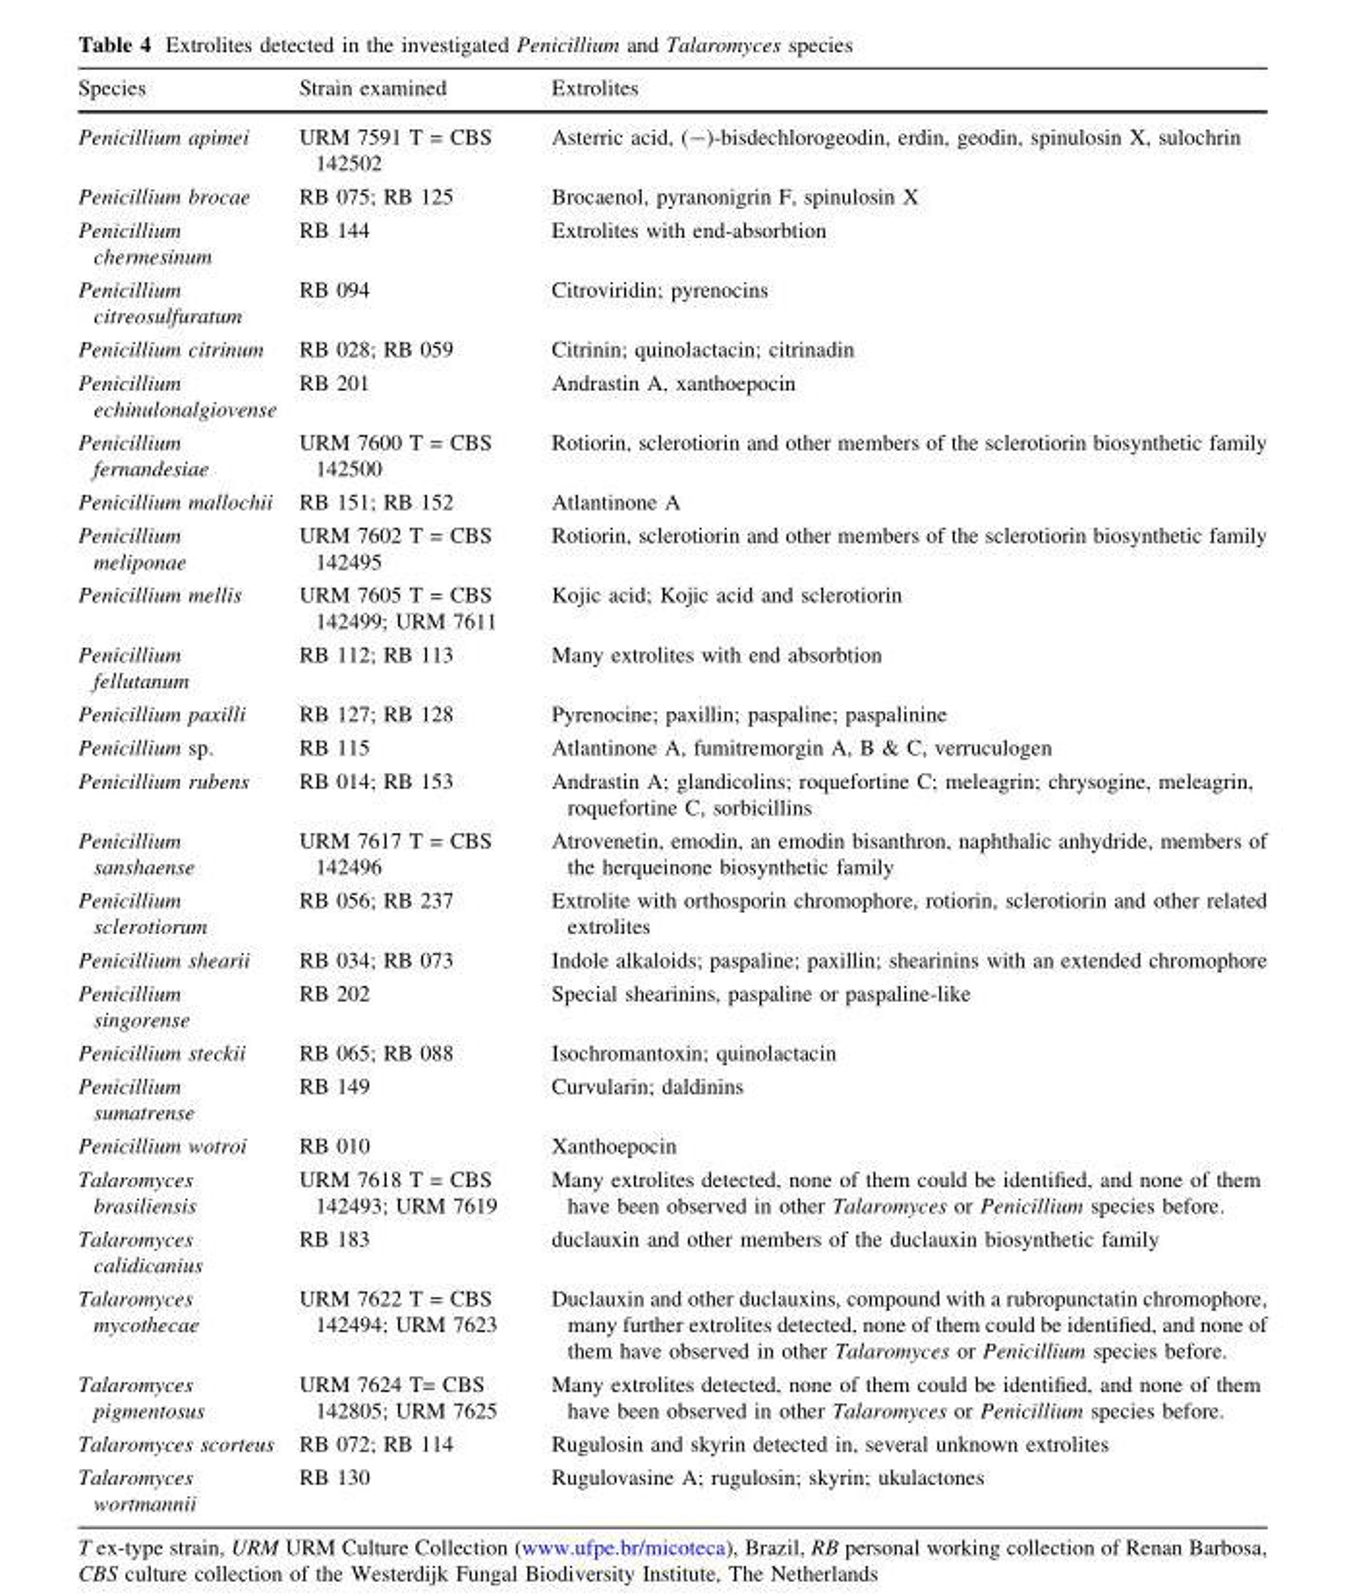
<table><thead><tr><td>Species</td><td>Strain examined</td><td>Extrolites</td></tr></thead><tbody><tr><td>Penicillium apimei</td><td>URM 7591 T = CBS 142502</td><td>Asterric acid, (-)-bisdechlorogeodin, erdin, geodin, spinulosin X, sulochrin</td></tr><tr><td>Penicillium brocae</td><td>RB 075; RB 125</td><td>Brocaenol, pyranonigrin F, spinulosin X</td></tr><tr><td>Penicillium chermesinum</td><td>RB 144</td><td>Extrolites with end-absorbtion</td></tr><tr><td>Penicillium citreosulfuratum</td><td>RB 094</td><td>Citroviridin; pyrenocins</td></tr><tr><td>Penicillium citrinum</td><td>RB 028; RB 059</td><td>Citrinin; quinolactacin; citrinadin</td></tr><tr><td>Penicillium echinulonalgiovense</td><td>RB 201</td><td>Andrastin A, xanthoepocin</td></tr><tr><td>Penicillium fernandesiae</td><td>URM 7600 T = CBS 142500</td><td>Rotiorin, sclerotiorin and other members of the sclerotiorin biosynthetic family</td></tr><tr><td>Penicillium mallochii</td><td>RB 151; RB 152</td><td>Atlantinone A</td></tr><tr><td>Penicillium meliponae</td><td>URM 7602 T = CBS 142495</td><td>Rotiorin, sclerotiorin and other members of the sclerotiorin biosynthetic family</td></tr><tr><td>Penicillium mellis</td><td>URM 7605 T = CBS 142499; URM 7611</td><td>Kojic acid; Kojic acid and sclerotiorin</td></tr><tr><td>Penicillium fellutanum</td><td>RB 112; RB 113</td><td>Many extrolites with end absorbtion</td></tr><tr><td>Penicillium paxilli</td><td>RB 127; RB 128</td><td>Pyrenocine; paxillin; paspaline; paspalinine</td></tr><tr><td>Penicillium sp.</td><td>RB 115</td><td>Atlantinone A, fumitremorgin A, B &amp; C, verruculogen</td></tr><tr><td>Penicillium rubens</td><td>RB 014; RB 153</td><td>Andrastin A; glandicolins; roquefortine C; meleagrin; chrysogine, meleagrin, roquefortine C, sorbicillins</td></tr><tr><td>Penicillium sanshaense</td><td>URM 7617 T = CBS 142496</td><td>Atrovenetin, emodin, an emodin bisanthron, naphthalic anhydride, members of the herqueinone biosynthetic family</td></tr><tr><td>Penicillium sclerotiorum</td><td>RB 056; RB 237</td><td>Extrolite with orthosporin chromophore, rotiorin, sclerotiorin and other related extrolites</td></tr><tr><td>Penicillium shearii</td><td>RB 034; RB 073</td><td>Indole alkaloids; paspaline; paxillin; shearinins with an extended chromophore</td></tr><tr><td>Penicillium singorense</td><td>RB 202</td><td>Special shearinins, paspaline or paspaline-like</td></tr><tr><td>Penicillium steckii</td><td>RB 065; RB 088</td><td>Isochromantoxin; quinolactacin</td></tr><tr><td>Penicillium sumatrense</td><td>RB 149</td><td>Curvularin; daldinins</td></tr><tr><td>Penicillium wotroi</td><td>RB 010</td><td>Xanthoepocin</td></tr><tr><td>Talaromyces brasiliensis</td><td>URM 7618 T = CBS 142493; URM 7619</td><td>Many extrolites detected, none of them could be identified, and none of them have been observed in other Talaromyces or Penicillium species before.</td></tr><tr><td>Talaromyces calidicanius</td><td>RB 183</td><td>duclauxin and other members of the duclauxin biosynthetic family</td></tr><tr><td>Talaromyces mycothecae</td><td>URM 7622 T = CBS 142494; URM 7623</td><td>Duclauxin and other duclauxins, compound with a rubropunctatin chromophore, many further extrolites detected, none of them could be identified, and none of them have observed in other Talaromyces or Penicillium species before.</td></tr><tr><td>Talaromyces pigmentosus</td><td>URM 7624 T= CBS 142805; URM 7625</td><td>Many extrolites detected, none of them could be identified, and none of them have been observed in other Talaromyces or Penicillium species before.</td></tr><tr><td>Talaromyces scorteus</td><td>RB 072; RB 114</td><td>Rugulosin and skyrin detected in, several unknown extrolites</td></tr><tr><td>Talaromyces wortmannii</td><td>RB 130</td><td>Rugulovasine A; rugulosin; skyrin; ukulactones</td></tr></tbody></table>